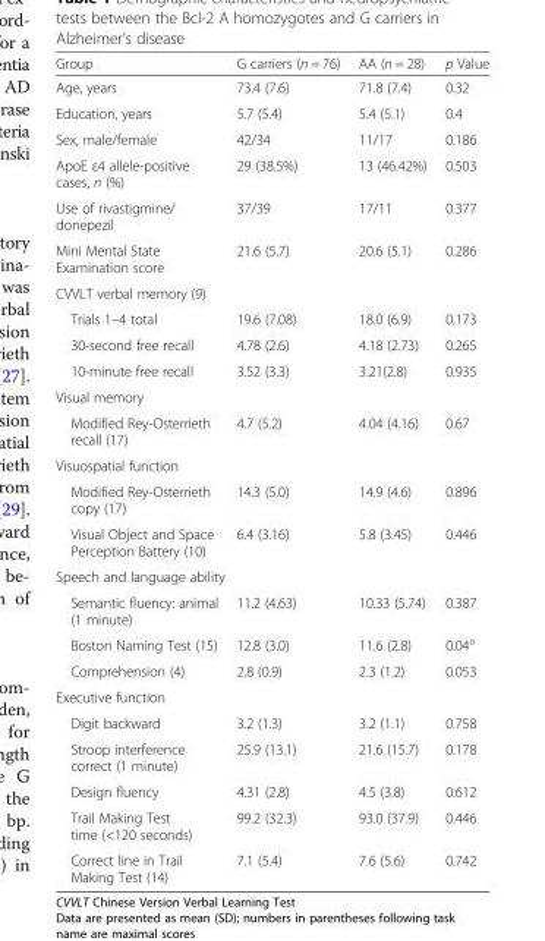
<table><thead><tr><td>Group</td><td>G carriers (n = 76)</td><td>AA (n = 28)</td><td>p Value</td></tr></thead><tbody><tr><td>Age, years</td><td>73.4 (7.6)</td><td>71.8 (7.4)</td><td>0.32</td></tr><tr><td>Education, years</td><td>5.7 (5.4)</td><td>5.4 (5.1)</td><td>0.4</td></tr><tr><td>Sex, male/female</td><td>42/34</td><td>11/17</td><td>0.186</td></tr><tr><td>ApoE ε4 allele-positive cases, n (%)</td><td>29 (38.5%)</td><td>13 (46.42%)</td><td>0.503</td></tr><tr><td>Use of rivastigmine/ donepezil</td><td>37/39</td><td>17/11</td><td>0.377</td></tr><tr><td>Mini Mental State Examination score</td><td>21.6 (5.7)</td><td>20.6 (5.1)</td><td>0.286</td></tr><tr><td colspan="4">CVVLT verbal memory (9)</td></tr><tr><td>Trials 1–4 total</td><td>19.6 (7.08)</td><td>18.0 (6.9)</td><td>0.173</td></tr><tr><td>30-second free recall</td><td>4.78 (2.6)</td><td>4.18 (2.73)</td><td>0.265</td></tr><tr><td>10-minute free recall</td><td>3.52 (3.3)</td><td>3.21(2.8)</td><td>0.935</td></tr><tr><td colspan="4">Visual memory</td></tr><tr><td>Modified Rey-Osterrieth recall (17)</td><td>4.7 (5.2)</td><td>4.04 (4.16)</td><td>0.67</td></tr><tr><td colspan="4">Visuospatial function</td></tr><tr><td>Modified Rey-Osterrieth copy (17)</td><td>14.3 (5.0)</td><td>14.9 (4.6)</td><td>0.896</td></tr><tr><td>Visual Object and Space Perception Battery (10)</td><td>6.4 (3.16)</td><td>5.8 (3.45)</td><td>0.446</td></tr><tr><td colspan="4">Speech and language ability</td></tr><tr><td>Semantic fluency: animal (1 minute)</td><td>11.2 (4.63)</td><td>10.33 (5.74)</td><td>0.387</td></tr><tr><td>Boston Naming Test (15)</td><td>12.8 (3.0)</td><td>11.6 (2.8)</td><td>0.04<sup>a</sup></td></tr><tr><td>Comprehension (4)</td><td>2.8 (0.9)</td><td>2.3 (1.2)</td><td>0.053</td></tr><tr><td colspan="4">Executive function</td></tr><tr><td>Digit backward</td><td>3.2 (1.3)</td><td>3.2 (1.1)</td><td>0.758</td></tr><tr><td>Stroop interference correct (1 minute)</td><td>25.9 (13.1)</td><td>21.6 (15.7)</td><td>0.178</td></tr><tr><td>Design fluency</td><td>4.31 (2.8)</td><td>4.5 (3.8)</td><td>0.612</td></tr><tr><td>Trail Making Test time (&lt;120 seconds)</td><td>99.2 (32.3)</td><td>93.0 (37.9)</td><td>0.446</td></tr><tr><td>Correct line in Trail Making Test (14)</td><td>7.1 (5.4)</td><td>7.6 (5.6)</td><td>0.742</td></tr></tbody></table>